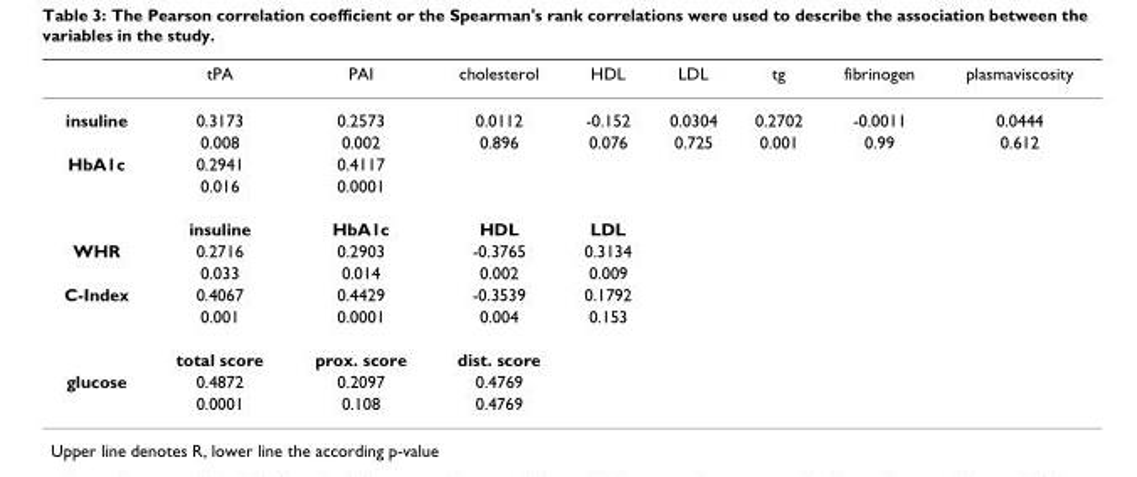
<table><thead><tr><td></td><td>tPA</td><td>PAI</td><td>cholesterol</td><td>HDL</td><td>LDL</td><td>tg</td><td>fibrinogen</td><td>plasmaviscosity</td></tr></thead><tbody><tr><td rowspan="2">insuline</td><td>0.3173</td><td>0.2573</td><td>0.0112</td><td>-0.152</td><td>0.0304</td><td>0.2702</td><td>-0.0011</td><td>0.0444</td></tr><tr><td>0.008</td><td>0.002</td><td>0.896</td><td>0.076</td><td>0.725</td><td>0.001</td><td>0.99</td><td>0.612</td></tr><tr><td rowspan="3">HbA1c</td><td>0.2941</td><td>0.4117</td><td></td><td></td><td></td><td></td><td></td><td></td></tr><tr><td>0.016</td><td>0.0001</td><td></td><td></td><td></td><td></td><td></td><td></td></tr><tr><td>insuline</td><td>HbA1c</td><td>HDL</td><td>LDL</td><td></td><td></td><td></td><td></td></tr><tr><td rowspan="2">WHR</td><td>0.2716</td><td>0.2903</td><td>-0.3765</td><td>0.3134</td><td></td><td></td><td></td><td></td></tr><tr><td>0.033</td><td>0.014</td><td>0.002</td><td>0.009</td><td></td><td></td><td></td><td></td></tr><tr><td rowspan="3">C-Index</td><td>0.4067</td><td>0.4429</td><td>-0.3539</td><td>0.1792</td><td></td><td></td><td></td><td></td></tr><tr><td>0.001</td><td>0.0001</td><td>0.004</td><td>0.153</td><td></td><td></td><td></td><td></td></tr><tr><td>total score</td><td>prox. score</td><td>dist. score</td><td></td><td></td><td></td><td></td><td></td></tr><tr><td rowspan="2">glucose</td><td>0.4872</td><td>0.2097</td><td>0.4769</td><td></td><td></td><td></td><td></td><td></td></tr><tr><td>0.0001</td><td>0.108</td><td>0.4769</td><td></td><td></td><td></td><td></td><td></td></tr></tbody></table>